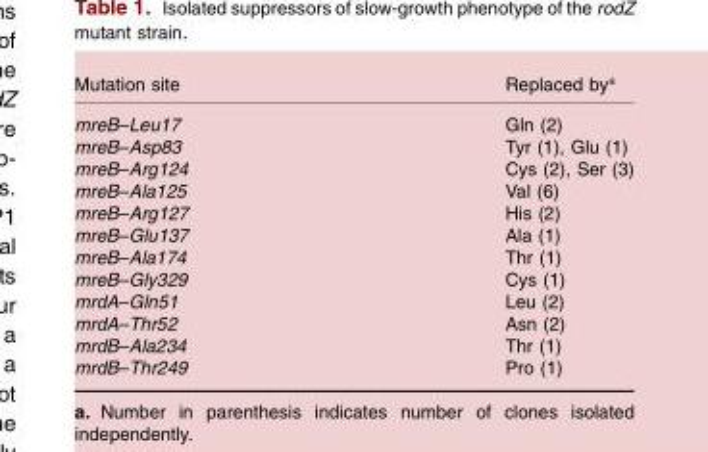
<table><thead><tr><td>Mutation site</td><td>Replaced by<sup>a</sup></td></tr></thead><tbody><tr><td>mreB–Leu17</td><td>Gln (2)</td></tr><tr><td>mreB–Asp83</td><td>Tyr (1), Glu (1)</td></tr><tr><td>mreB–Arg124</td><td>Cys (2), Ser (3)</td></tr><tr><td>mreB–Ala125</td><td>Val (6)</td></tr><tr><td>mreB–Arg127</td><td>His (2)</td></tr><tr><td>mreB–Glu137</td><td>Ala (1)</td></tr><tr><td>mreB–Ala174</td><td>Thr (1)</td></tr><tr><td>mreB–Gly329</td><td>Cys (1)</td></tr><tr><td>mrdA–Gln51</td><td>Leu (2)</td></tr><tr><td>mrdA–Thr52</td><td>Asn (2)</td></tr><tr><td>mrdB–Ala234</td><td>Thr (1)</td></tr><tr><td>mrdB–Thr249</td><td>Pro (1)</td></tr></tbody></table>